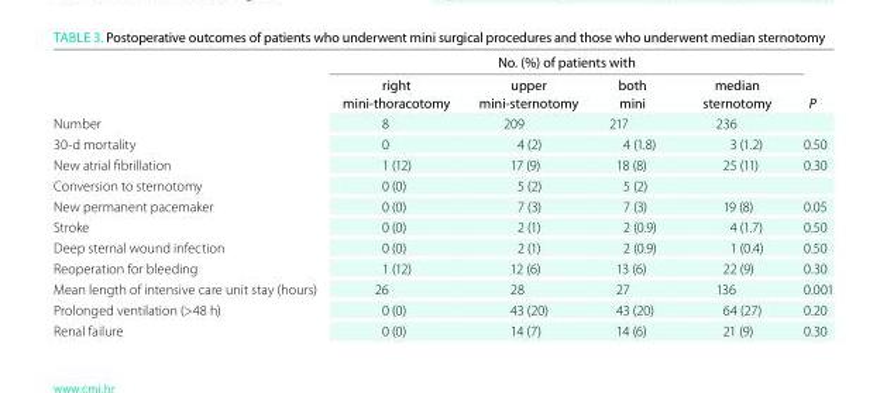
<table><thead><tr><td rowspan="2"></td><td colspan="4">no. (%) of patients with</td><td rowspan="2">P</td></tr><tr><td>right mini-thoracotomy</td><td>upper mini-sternotomy</td><td>both mini</td><td>median sternotomy</td></tr></thead><tbody><tr><td>Number</td><td>8</td><td>209</td><td>217</td><td>236</td><td></td></tr><tr><td>30-d mortality</td><td>0</td><td>4 (2)</td><td>4 (1.8)</td><td>3 (1.2)</td><td>0.50</td></tr><tr><td>New atrial fibrillation</td><td>1 (12)</td><td>17 (9)</td><td>18 (8)</td><td>25 (11)</td><td>0.30</td></tr><tr><td>Conversion to sternotomy</td><td>0 (0)</td><td>5 (2)</td><td>5 (2)</td><td></td><td></td></tr><tr><td>New permanent pacemaker</td><td>0 (0)</td><td>7 (3)</td><td>7 (3)</td><td>19 (8)</td><td>0.05</td></tr><tr><td>Stroke</td><td>0 (0)</td><td>2 (1)</td><td>2 (0.9)</td><td>4 (1.7)</td><td>0.50</td></tr><tr><td>Deep sternal wound infection</td><td>0 (0)</td><td>2 (1)</td><td>2 (0.9)</td><td>1 (0.4)</td><td>0.50</td></tr><tr><td>Reoperation for bleeding</td><td>1 (12)</td><td>12 (6)</td><td>13 (6)</td><td>22 (9)</td><td>0.30</td></tr><tr><td>Mean length of intensive care unit stay (hours)</td><td>26</td><td>28</td><td>27</td><td>136</td><td>0.001</td></tr><tr><td>Prolonged ventilation (&gt;48 h)</td><td>0 (0)</td><td>43 (20)</td><td>43 (20)</td><td>64 (27)</td><td>0.20</td></tr><tr><td>Renal failure</td><td>0 (0)</td><td>14 (7)</td><td>14 (6)</td><td>21 (9)</td><td>0.30</td></tr></tbody></table>